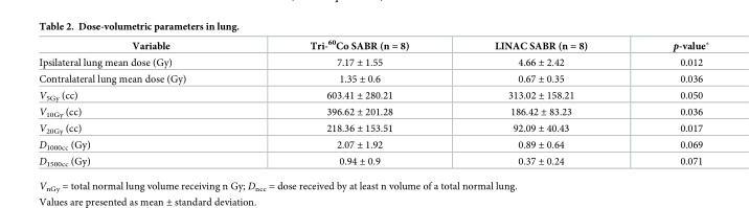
<table><thead><tr><td>Variable</td><td>Tri-<sup>60</sup>Co SABR (n = 8)</td><td>LINAC SABR (n = 8)</td><td>p-value*</td></tr></thead><tbody><tr><td>Ipsilateral lung mean dose (Gy)</td><td>7.17 ± 1.55</td><td>4.66 ± 2.42</td><td>0.012</td></tr><tr><td>Contralateral lung mean dose (Gy)</td><td>1.35 ± 0.6</td><td>0.67 ± 0.35</td><td>0.036</td></tr><tr><td>V<sub>5Gy</sub> (cc)</td><td>603.41 ± 280.21</td><td>313.02 ± 158.21</td><td>0.050</td></tr><tr><td>V<sub>10Gy</sub> (cc)</td><td>396.62 ± 201.28</td><td>186.42 ± 83.23</td><td>0.036</td></tr><tr><td>V<sub>20Gy</sub> (cc)</td><td>218.36 ± 153.51</td><td>92.09 ± 40.43</td><td>0.017</td></tr><tr><td>D<sub>1000cc</sub> (Gy)</td><td>2.07 ± 1.92</td><td>0.89 ± 0.64</td><td>0.069</td></tr><tr><td>D<sub>1500cc</sub> (Gy)</td><td>0.94 ± 0.9</td><td>0.37 ± 0.24</td><td>0.071</td></tr></tbody></table>